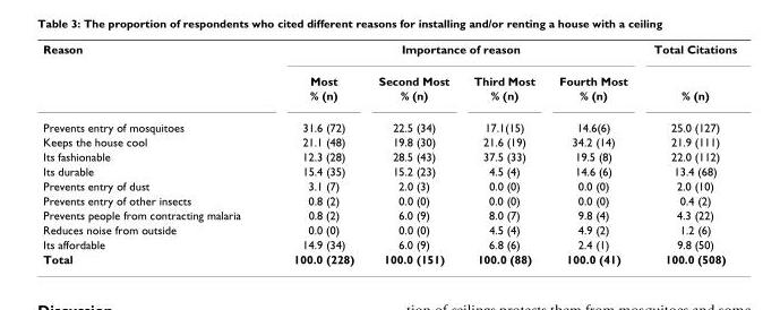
<table><tbody><tr><td rowspan="3">Reason</td><td colspan="4">Importance of reason</td><td>Total Citations</td></tr><tr><td>Most</td><td>Second Most</td><td>Third Most</td><td>Fourth Most</td><td></td></tr><tr><td>% (n)</td><td>% (n)</td><td>% (n)</td><td>% (n)</td><td>% (n)</td></tr><tr><td>Prevents entry of mosquitoes</td><td>31.6 (72)</td><td>22.5 (34)</td><td>17.1(15)</td><td>14.6(6)</td><td>25.0 (127)</td></tr><tr><td>Keeps the house cool</td><td>21.1 (48)</td><td>19.8 (30)</td><td>21.6 (19)</td><td>34.2 (14)</td><td>21.9 (111)</td></tr><tr><td>Its fashionable</td><td>12.3 (28)</td><td>28.5 (43)</td><td>37.5 (33)</td><td>19.5 (8)</td><td>22.0 (112)</td></tr><tr><td>Its durable</td><td>15.4 (35)</td><td>15.2 (23)</td><td>4.5 (4)</td><td>14.6 (6)</td><td>13.4 (68)</td></tr><tr><td>Prevents entry of dust</td><td>3.1 (7)</td><td>2.0 (3)</td><td>0.0 (0)</td><td>0.0 (0)</td><td>2.0 (10)</td></tr><tr><td>Prevents entry of other insects</td><td>0.8 (2)</td><td>0.0 (0)</td><td>0.0 (0)</td><td>0.0 (0)</td><td>0.4 (2)</td></tr><tr><td>Prevents people from contracting malaria</td><td>0.8 (2)</td><td>6.0 (9)</td><td>8.0 (7)</td><td>9.8 (4)</td><td>4.3 (22)</td></tr><tr><td>Reduces noise from outside</td><td>0.0 (0)</td><td>0.0 (0)</td><td>4.5 (4)</td><td>4.9 (2)</td><td>1.2 (6)</td></tr><tr><td>Its affordable</td><td>14.9 (34)</td><td>6.0 (9)</td><td>6.8 (6)</td><td>2.4 (1)</td><td>9.8 (50)</td></tr><tr><td>Total</td><td>100.0 (228)</td><td>100.0 (151)</td><td>100.0 (88)</td><td>100.0 (41)</td><td>100.0 (508)</td></tr></tbody></table>